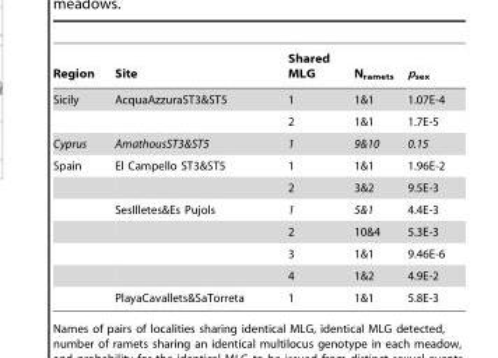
<table><thead><tr><td>Region</td><td>Site</td><td>Shared MLG</td><td>N<sub>ramets</sub></td><td>p<sub>sex</sub></td></tr></thead><tbody><tr><td rowspan="2">Sicily</td><td>AcquaAzzuraST3&amp;ST5</td><td>1</td><td>1&amp;1</td><td>1.07E-4</td></tr><tr><td></td><td>2</td><td>1&amp;1</td><td>1.7E-5</td></tr><tr><td>Cyprus</td><td>AmathousST3&amp;ST5</td><td>1</td><td>9&amp;10</td><td>0.15</td></tr><tr><td rowspan="7">Spain</td><td>El Campello ST3&amp;ST5</td><td>1</td><td>1&amp;1</td><td>1.96E-2</td></tr><tr><td></td><td>2</td><td>3&amp;2</td><td>9.5E-3</td></tr><tr><td>SesIlletes&amp;Es Pujols</td><td>1</td><td>5&amp;1</td><td>4.4E-3</td></tr><tr><td></td><td>2</td><td>10&amp;4</td><td>5.3E-3</td></tr><tr><td></td><td>3</td><td>1&amp;1</td><td>9.46E-6</td></tr><tr><td></td><td>4</td><td>1&amp;2</td><td>4.9E-2</td></tr><tr><td>PlayaCavallets&amp;SaTorreta</td><td>1</td><td>1&amp;1</td><td>5.8E-3</td></tr></tbody></table>